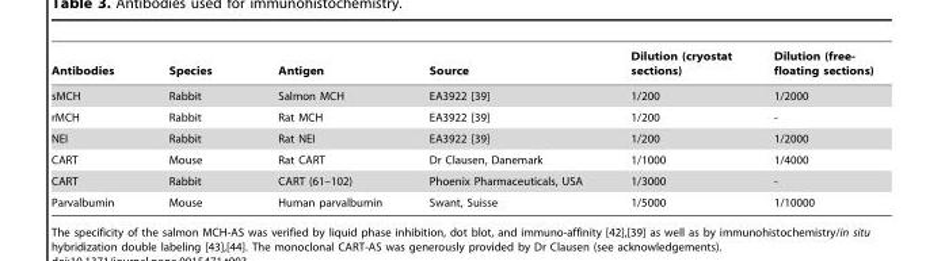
<table><thead><tr><td>Antibodies</td><td>Species</td><td>Antigen</td><td>Source</td><td>Dilution (cryostat sections)</td><td>Dilution (free- floating sections)</td></tr></thead><tbody><tr><td>sMCH</td><td>Rabbit</td><td>Salmon MCH</td><td>EA3922 [39]</td><td>1/200</td><td>1/2000</td></tr><tr><td>rMCH</td><td>Rabbit</td><td>Rat MCH</td><td>EA3922 [39]</td><td>1/200</td><td>-</td></tr><tr><td>NEI</td><td>Rabbit</td><td>Rat NEI</td><td>EA3922 [39]</td><td>1/200</td><td>1/2000</td></tr><tr><td>CART</td><td>Mouse</td><td>Rat CART</td><td>Dr Clausen, Danemark</td><td>1/1000</td><td>1/4000</td></tr><tr><td>CART</td><td>Rabbit</td><td>CART (61–102)</td><td>Phoenix Pharmaceuticals, USA</td><td>1/3000</td><td>-</td></tr><tr><td>Parvalbumin</td><td>Mouse</td><td>Human parvalbumin</td><td>Swant, Suisse</td><td>1/5000</td><td>1/10000</td></tr></tbody></table>